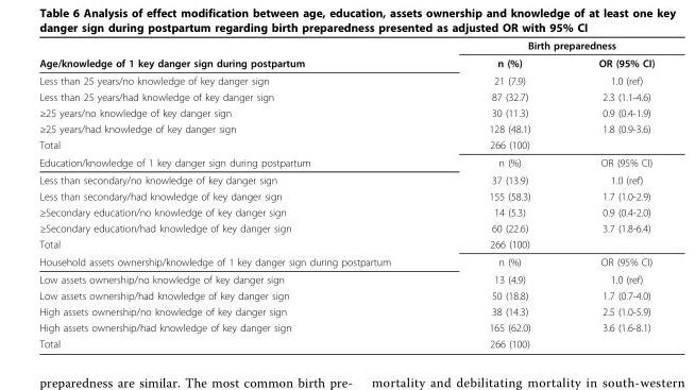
<table><thead><tr><td rowspan="2">Age/knowledge of 1 key danger sign during postpartum</td><td colspan="2">Birth preparedness</td></tr><tr><td>n (%)</td><td>OR (95% CI)</td></tr></thead><tbody><tr><td>Less than 25 years/no knowledge of key danger sign</td><td>21 (7.9)</td><td>1.0 (ref)</td></tr><tr><td>Less than 25 years/had knowledge of key danger sign</td><td>87 (32.7)</td><td>2.3 (1.1-4.6)</td></tr><tr><td>≥25 years/no knowledge of key danger sign</td><td>30 (11.3)</td><td>0.9 (0.4-1.9)</td></tr><tr><td>≥25 years/had knowledge of key danger sign</td><td>128 (48.1)</td><td>1.8 (0.9-3.6)</td></tr><tr><td>Total</td><td>266 (100)</td><td></td></tr><tr><td>Education/knowledge of 1 key danger sign during postpartum</td><td>n (%)</td><td>OR (95% CI)</td></tr><tr><td>Less than secondary/no knowledge of key danger sign</td><td>37 (13.9)</td><td>1.0 (ref)</td></tr><tr><td>Less than secondary/had knowledge of key danger sign</td><td>155 (58.3)</td><td>1.7 (1.0-2.9)</td></tr><tr><td>≥Secondary education/no knowledge of key danger sign</td><td>14 (5.3)</td><td>0.9 (0.4-2.0)</td></tr><tr><td>≥Secondary education/had knowledge of key danger sign</td><td>60 (22.6)</td><td>3.7 (1.8-6.4)</td></tr><tr><td>Total</td><td>266 (100)</td><td></td></tr><tr><td>Household assets ownership/knowledge of 1 key danger sign during postpartum</td><td>n (%)</td><td>OR (95% CI)</td></tr><tr><td>Low assets ownership/no knowledge of key danger sign</td><td>13 (4.9)</td><td>1.0 (ref)</td></tr><tr><td>Low assets ownership/had knowledge of key danger sign</td><td>50 (18.8)</td><td>1.7 (0.7-4.0)</td></tr><tr><td>High assets ownership/no knowledge of key danger sign</td><td>38 (14.3)</td><td>2.5 (1.0-5.9)</td></tr><tr><td>High assets ownership/had knowledge of key danger sign</td><td>165 (62.0)</td><td>3.6 (1.6-8.1)</td></tr><tr><td>Total</td><td>266 (100)</td><td></td></tr></tbody></table>